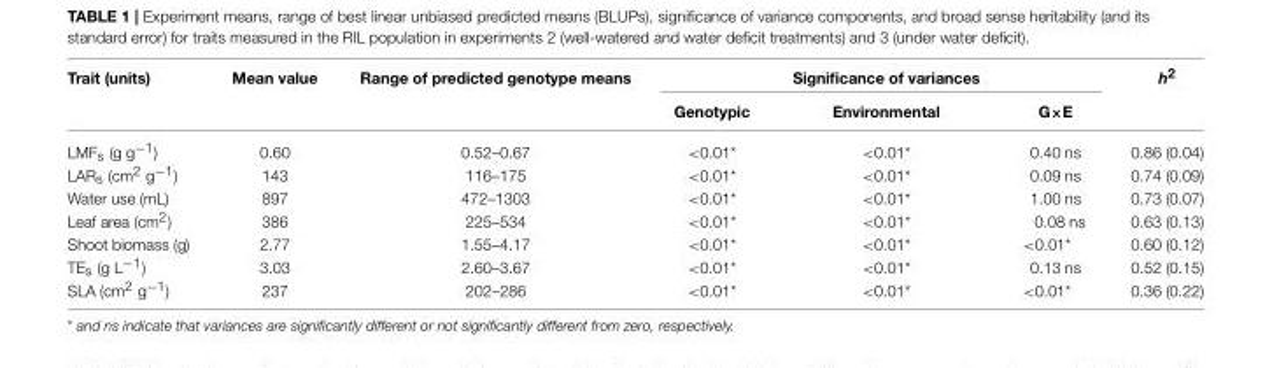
<table><thead><tr><td rowspan="2">Trait (units)</td><td rowspan="2">Mean value</td><td rowspan="2">Range of predicted genotype means</td><td colspan="3">Significance of variances</td><td rowspan="2">h<sup>2</sup></td></tr><tr><td>Genotypic</td><td>Environmental</td><td>G×E</td></tr></thead><tbody><tr><td>LMF<sub>s</sub> (g g<sup>−1</sup>)</td><td>0.60</td><td>0.52–0.67</td><td>&lt;0.01*</td><td>&lt;0.01*</td><td>0.40 ns</td><td>0.86 (0.04)</td></tr><tr><td>LAR<sub>s</sub> (cm<sup>2</sup> g<sup>−1</sup>)</td><td>143</td><td>116–175</td><td>&lt;0.01*</td><td>&lt;0.01*</td><td>0.09 ns</td><td>0.74 (0.09)</td></tr><tr><td>Water use (mL)</td><td>897</td><td>472–1303</td><td>&lt;0.01*</td><td>&lt;0.01*</td><td>1.00 ns</td><td>0.73 (0.07)</td></tr><tr><td>Leaf area (cm<sup>2</sup>)</td><td>386</td><td>225–534</td><td>&lt;0.01*</td><td>&lt;0.01*</td><td>0.08 ns</td><td>0.63 (0.13)</td></tr><tr><td>Shoot biomass (g)</td><td>2.77</td><td>1.55–4.17</td><td>&lt;0.01*</td><td>&lt;0.01*</td><td>&lt;0.01*</td><td>0.60 (0.12)</td></tr><tr><td>TE<sub>s</sub> (g L<sup>−1</sup>)</td><td>3.03</td><td>2.60–3.67</td><td>&lt;0.01*</td><td>&lt;0.01*</td><td>0.13 ns</td><td>0.52 (0.15)</td></tr><tr><td>SLA (cm<sup>2</sup> g<sup>−1</sup>)</td><td>237</td><td>202–286</td><td>&lt;0.01*</td><td>&lt;0.01*</td><td>&lt;0.01*</td><td>0.36 (0.22)</td></tr></tbody></table>